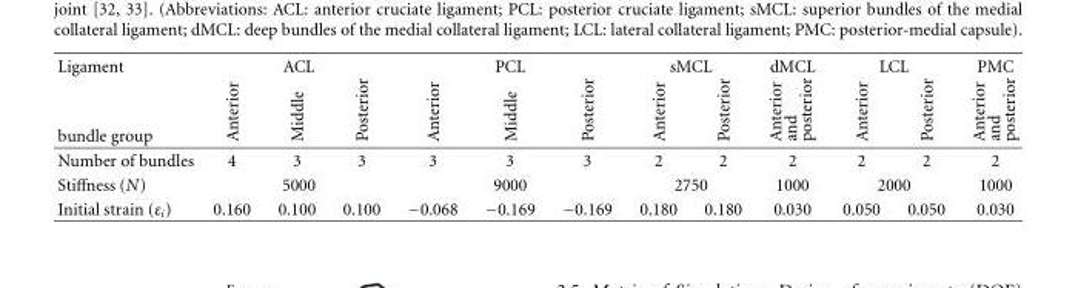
<table><thead><tr><td rowspan="2">Ligament bundle group</td><td colspan="3">ACL</td><td colspan="3">PCL</td><td colspan="2">sMCL</td><td rowspan="2">dMCL Anterior and posterior</td><td colspan="2">LCL</td><td rowspan="2">PMC Anterior and posterior</td></tr><tr><td>Anterior</td><td>Middle</td><td>Posterior</td><td>Anterior</td><td>Middle</td><td>Posterior</td><td>Anterior</td><td>Posterior</td><td>Anterior</td><td>Posterior</td></tr></thead><tbody><tr><td>Number of bundles</td><td>4</td><td>3</td><td>3</td><td>3</td><td>3</td><td>3</td><td>2</td><td>2</td><td>2</td><td>2</td><td>2</td><td>2</td></tr><tr><td>Stiffness (N)</td><td colspan="3">5000</td><td colspan="3">9000</td><td colspan="2">2750</td><td>1000</td><td colspan="2">2000</td><td>1000</td></tr><tr><td>Initial strain (ε<sub>i</sub>)</td><td>0.160</td><td>0.100</td><td>0.100</td><td>−0.068</td><td>−0.169</td><td>−0.169</td><td>0.180</td><td>0.180</td><td>0.030</td><td>0.050</td><td>0.050</td><td>0.030</td></tr></tbody></table>